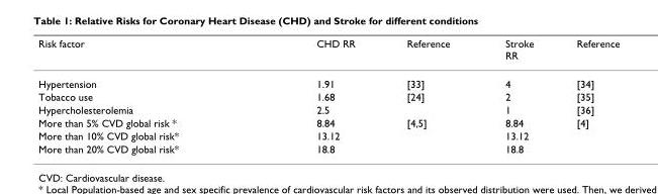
<table><thead><tr><td>Risk factor</td><td>CHD RR</td><td>Reference</td><td>Stroke RR</td><td>Reference</td></tr></thead><tbody><tr><td>Hypertension</td><td>1.91</td><td>[33]</td><td>4</td><td>[34]</td></tr><tr><td>Tobacco use</td><td>1.68</td><td>[24]</td><td>2</td><td>[35]</td></tr><tr><td>Hypercholesterolemia</td><td>2.5</td><td></td><td>1</td><td>[36]</td></tr><tr><td>More than 5% CVD global risk *</td><td>8.84</td><td>[4,5]</td><td>8.84</td><td>[4]</td></tr><tr><td>More than 10% CVD global risk*</td><td>13.12</td><td></td><td>13.12</td><td></td></tr><tr><td>More than 20% CVD global risk*</td><td>18.8</td><td></td><td>18.8</td><td></td></tr></tbody></table>